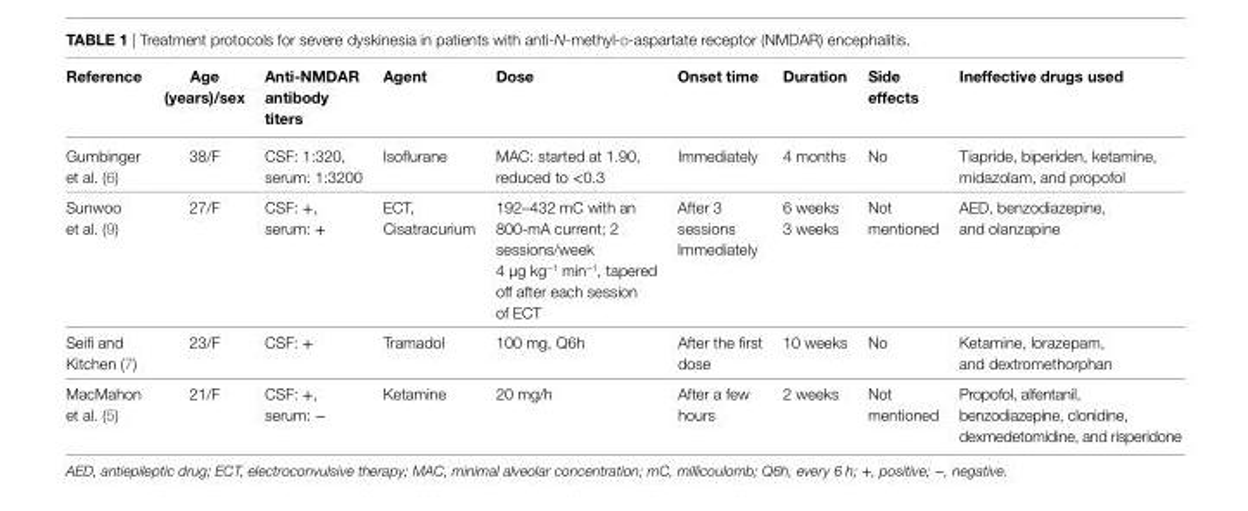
<table><thead><tr><td>Reference</td><td>age (years)/sex</td><td>anti-NMDaR antibody titers</td><td>agent</td><td>Dose</td><td>onset time</td><td>Duration</td><td>side effects</td><td>Ineffective drugs used</td></tr></thead><tbody><tr><td>Gumbinger et al. (6)</td><td>38/F</td><td>CSF: 1:320, serum: 1:3200</td><td>Isoflurane</td><td>MAC: started at 1.90, reduced to &lt;0.3</td><td>Immediately</td><td>4 months</td><td>No</td><td>Tiapride, biperiden, ketamine, midazolam, and propofol</td></tr><tr><td>Sunwoo et al. (9)</td><td>27/F</td><td>CSF: +, serum: +</td><td>ECT, Cisatracurium</td><td>192–432 mC with an 800-mA current; 2 sessions/week 4 µg kg<sup>−1</sup> min<sup>−1</sup>, tapered off after each session of ECT</td><td>After 3 sessions Immediately</td><td>6 weeks 3 weeks</td><td>Not mentioned</td><td>AED, benzodiazepine, and olanzapine</td></tr><tr><td>Seifi and Kitchen (7)</td><td>23/F</td><td>CSF: +</td><td>Tramadol</td><td>100 mg, Q6h</td><td>After the first dose</td><td>10 weeks</td><td>No</td><td>Ketamine, lorazepam, and dextromethorphan</td></tr><tr><td>MacMahon et al. (5)</td><td>21/F</td><td>CSF: +, serum: −</td><td>Ketamine</td><td>20 mg/h</td><td>After a few hours</td><td>2 weeks</td><td>Not mentioned</td><td>Propofol, alfentanil, benzodiazepine, clonidine, dexmedetomidine, and risperidone</td></tr></tbody></table>